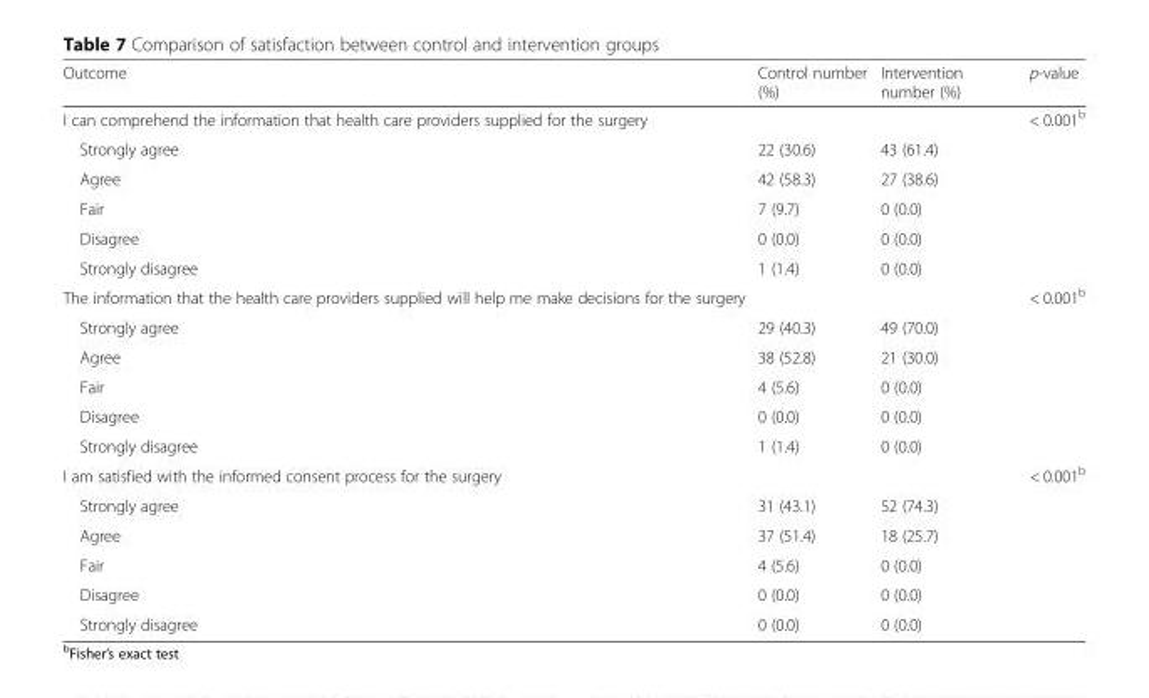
<table><thead><tr><td>Outcome</td><td>Control number (%)</td><td>Intervention number (%)</td><td>p-value</td></tr></thead><tbody><tr><td>I can comprehend the information that health care providers supplied for the surgery</td><td></td><td></td><td>&lt; 0.001<sup>b</sup></td></tr><tr><td>Strongly agree</td><td>22 (30.6)</td><td>43 (61.4)</td><td></td></tr><tr><td>Agree</td><td>42 (58.3)</td><td>27 (38.6)</td><td></td></tr><tr><td>Fair</td><td>7 (9.7)</td><td>0 (0.0)</td><td></td></tr><tr><td>Disagree</td><td>0 (0.0)</td><td>0 (0.0)</td><td></td></tr><tr><td>Strongly disagree</td><td>1 (1.4)</td><td>0 (0.0)</td><td></td></tr><tr><td>The information that the health care providers supplied will help me make decisions for the surgery</td><td></td><td></td><td>&lt; 0.001<sup>b</sup></td></tr><tr><td>Strongly agree</td><td>29 (40.3)</td><td>49 (70.0)</td><td></td></tr><tr><td>Agree</td><td>38 (52.8)</td><td>21 (30.0)</td><td></td></tr><tr><td>Fair</td><td>4 (5.6)</td><td>0 (0.0)</td><td></td></tr><tr><td>Disagree</td><td>0 (0.0)</td><td>0 (0.0)</td><td></td></tr><tr><td>Strongly disagree</td><td>1 (1.4)</td><td>0 (0.0)</td><td></td></tr><tr><td>I am satisfied with the informed consent process for the surgery</td><td></td><td></td><td>&lt; 0.001<sup>b</sup></td></tr><tr><td>Strongly agree</td><td>31 (43.1)</td><td>52 (74.3)</td><td></td></tr><tr><td>Agree</td><td>37 (51.4)</td><td>18 (25.7)</td><td></td></tr><tr><td>Fair</td><td>4 (5.6)</td><td>0 (0.0)</td><td></td></tr><tr><td>Disagree</td><td>0 (0.0)</td><td>0 (0.0)</td><td></td></tr><tr><td>Strongly disagree</td><td>0 (0.0)</td><td>0 (0.0)</td><td></td></tr></tbody></table>